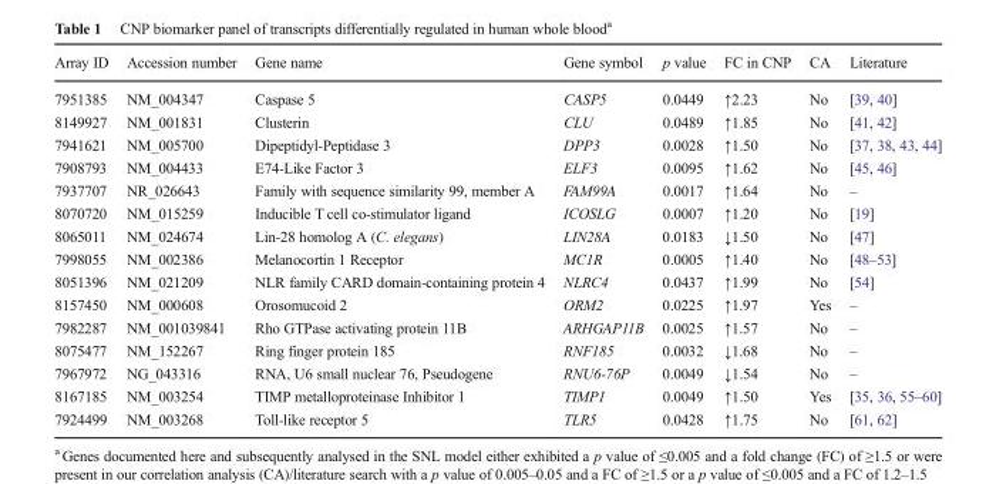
<table><thead><tr><td>Array ID</td><td>Accession number</td><td>Gene name</td><td>Gene symbol</td><td>p value</td><td>FC in CNP</td><td>CA</td><td>Literature</td></tr></thead><tbody><tr><td>7951385</td><td>NM_004347</td><td>Caspase 5</td><td>CASP5</td><td>0.0449</td><td>↑2.23</td><td>No</td><td>[39, 40]</td></tr><tr><td>8149927</td><td>NM_001831</td><td>Clusterin</td><td>CLU</td><td>0.0489</td><td>↑1.85</td><td>No</td><td>[41, 42]</td></tr><tr><td>7941621</td><td>NM_005700</td><td>Dipeptidyl-Peptidase 3</td><td>DPP3</td><td>0.0028</td><td>↑1.50</td><td>No</td><td>[37, 38, 43, 44]</td></tr><tr><td>7908793</td><td>NM_004433</td><td>E74-Like Factor 3</td><td>ELF3</td><td>0.0095</td><td>↑1.62</td><td>No</td><td>[45, 46]</td></tr><tr><td>7937707</td><td>NR_026643</td><td>Family with sequence similarity 99, member A</td><td>FAM99A</td><td>0.0017</td><td>↑1.64</td><td>No</td><td>–</td></tr><tr><td>8070720</td><td>NM_015259</td><td>Inducible T cell co-stimulator ligand</td><td>ICOSLG</td><td>0.0007</td><td>↑1.20</td><td>No</td><td>[19]</td></tr><tr><td>8065011</td><td>NM_024674</td><td>Lin-28 homolog A (C. elegans)</td><td>LIN28A</td><td>0.0183</td><td>↓1.50</td><td>No</td><td>[47]</td></tr><tr><td>7998055</td><td>NM_002386</td><td>Melanocortin 1 Receptor</td><td>MC1R</td><td>0.0005</td><td>↑1.40</td><td>No</td><td>[48–53]</td></tr><tr><td>8051396</td><td>NM_021209</td><td>NLR family CARD domain-containing protein 4</td><td>NLRC4</td><td>0.0437</td><td>↑1.99</td><td>No</td><td>[54]</td></tr><tr><td>8157450</td><td>NM_000608</td><td>Orosomucoid 2</td><td>ORM2</td><td>0.0225</td><td>↑1.97</td><td>Yes</td><td>–</td></tr><tr><td>7982287</td><td>NM_001039841</td><td>Rho GTPase activating protein 11B</td><td>ARHGAP11B</td><td>0.0025</td><td>↑1.57</td><td>No</td><td>–</td></tr><tr><td>8075477</td><td>NM_152267</td><td>Ring finger protein 185</td><td>RNF185</td><td>0.0032</td><td>↓1.68</td><td>No</td><td>–</td></tr><tr><td>7967972</td><td>NG_043316</td><td>RNA, U6 small nuclear 76, Pseudogene</td><td>RNU6-76P</td><td>0.0049</td><td>↓1.54</td><td>No</td><td>–</td></tr><tr><td>8167185</td><td>NM_003254</td><td>TIMP metalloproteinase Inhibitor 1</td><td>TIMP1</td><td>0.0049</td><td>↑1.50</td><td>Yes</td><td>[35, 36, 55–60]</td></tr><tr><td>7924499</td><td>NM_003268</td><td>Toll-like receptor 5</td><td>TLR5</td><td>0.0428</td><td>↑1.75</td><td>No</td><td>[61, 62]</td></tr></tbody></table>